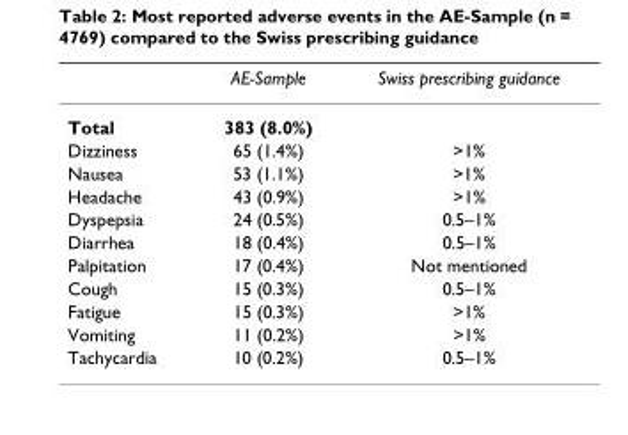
<table><thead><tr><td></td><td>AE-Sample</td><td>Swiss prescribing guidance</td></tr></thead><tbody><tr><td>Total</td><td>383 (8.0%)</td><td></td></tr><tr><td>Dizziness</td><td>65 (1.4%)</td><td>&gt;1%</td></tr><tr><td>Nausea</td><td>53 (1.1%)</td><td>&gt;1%</td></tr><tr><td>Headache</td><td>43 (0.9%)</td><td>&gt;1%</td></tr><tr><td>Dyspepsia</td><td>24 (0.5%)</td><td>0.5–1%</td></tr><tr><td>Diarrhea</td><td>18 (0.4%)</td><td>0.5–1%</td></tr><tr><td>Palpitation</td><td>17 (0.4%)</td><td>Not mentioned</td></tr><tr><td>Cough</td><td>15 (0.3%)</td><td>0.5–1%</td></tr><tr><td>Fatigue</td><td>15 (0.3%)</td><td>&gt;1%</td></tr><tr><td>Vomiting</td><td>11 (0.2%)</td><td>&gt;1%</td></tr><tr><td>Tachycardia</td><td>10 (0.2%)</td><td>0.5–1%</td></tr></tbody></table>